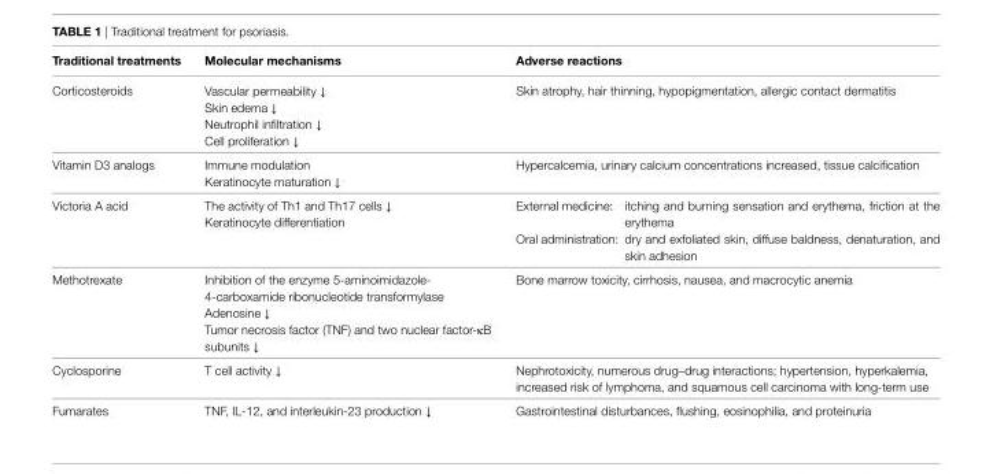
<table><thead><tr><td>Traditional treatments</td><td>Molecular mechanisms</td><td>Adverse reactions</td></tr></thead><tbody><tr><td>Corticosteroids</td><td>Vascular permeability ↓ Skin edema ↓ Neutrophil infiltration ↓ Cell proliferation ↓</td><td>Skin atrophy, hair thinning, hypopigmentation, allergic contact dermatitis</td></tr><tr><td>Vitamin D3 analogs</td><td>Immune modulation Keratinocyte maturation ↓</td><td>Hypercalcemia, urinary calcium concentrations increased, tissue calcification</td></tr><tr><td>Victoria A acid</td><td>The activity of Th1 and Th17 cells ↓ Keratinocyte differentiation</td><td>External medicine: itching and burning sensation and erythema, friction at the erythema Oral administration: dry and exfoliated skin, diffuse baldness, denaturation, and skin adhesion</td></tr><tr><td>Methotrexate</td><td>Inhibition of the enzyme 5-aminoimidazole- 4-carboxamide ribonucleotide transformylase Adenosine ↓ Tumor necrosis factor (TNF) and two nuclear factor-κB subunits ↓</td><td>Bone marrow toxicity, cirrhosis, nausea, and macrocytic anemia</td></tr><tr><td>Cyclosporine</td><td>T cell activity ↓</td><td>Nephrotoxicity, numerous drug–drug interactions; hypertension, hyperkalemia, increased risk of lymphoma, and squamous cell carcinoma with long-term use</td></tr><tr><td>Fumarates</td><td>TNF, IL-12, and interleukin-23 production ↓</td><td>Gastrointestinal disturbances, flushing, eosinophilia, and proteinuria</td></tr></tbody></table>